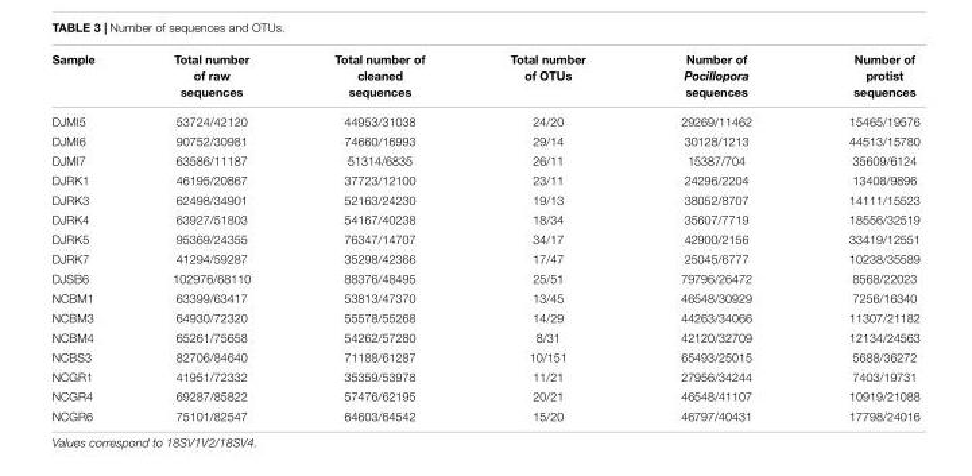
<table><thead><tr><td>Sample</td><td>Total number of raw sequences</td><td>Total number of cleaned sequences</td><td>Total number of OTUs</td><td>Number of Pocillopora sequences</td><td>Number of protist sequences</td></tr></thead><tbody><tr><td>DJMI5</td><td>53724/42120</td><td>44953/31038</td><td>24/20</td><td>29269/11462</td><td>15465/19576</td></tr><tr><td>DJMI6</td><td>90752/30981</td><td>74660/16993</td><td>29/14</td><td>30128/1213</td><td>44513/15780</td></tr><tr><td>DJMI7</td><td>63586/11187</td><td>51314/6835</td><td>26/11</td><td>15387/704</td><td>35609/6124</td></tr><tr><td>DJRK1</td><td>46195/20867</td><td>37723/12100</td><td>23/11</td><td>24296/2204</td><td>13408/9896</td></tr><tr><td>DJRK3</td><td>62498/34901</td><td>52163/24230</td><td>19/13</td><td>38052/8707</td><td>14111/15523</td></tr><tr><td>DJRK4</td><td>63927/51803</td><td>54167/40238</td><td>18/34</td><td>35607/7719</td><td>18556/32519</td></tr><tr><td>DJRK5</td><td>95369/24355</td><td>76347/14707</td><td>34/17</td><td>42900/2156</td><td>33419/12551</td></tr><tr><td>DJRK7</td><td>41294/59287</td><td>35298/42366</td><td>17/47</td><td>25045/6777</td><td>10238/35589</td></tr><tr><td>DJSB6</td><td>102976/68110</td><td>88376/48495</td><td>25/51</td><td>79796/26472</td><td>8568/22023</td></tr><tr><td>NCBM1</td><td>63399/63417</td><td>53813/47370</td><td>13/45</td><td>46548/30929</td><td>7256/16340</td></tr><tr><td>NCBM3</td><td>64930/72320</td><td>55578/55268</td><td>14/29</td><td>44263/34066</td><td>11307/21182</td></tr><tr><td>NCBM4</td><td>65261/75658</td><td>54262/57280</td><td>8/31</td><td>42120/32709</td><td>12134/24563</td></tr><tr><td>NCBS3</td><td>82706/84640</td><td>71188/61287</td><td>10/151</td><td>65493/25015</td><td>5688/36272</td></tr><tr><td>NCGR1</td><td>41951/72332</td><td>35359/53978</td><td>11/21</td><td>27956/34244</td><td>7403/19731</td></tr><tr><td>NCGR4</td><td>69287/85822</td><td>57476/62195</td><td>20/21</td><td>46548/41107</td><td>10919/21088</td></tr><tr><td>NCGR6</td><td>75101/82547</td><td>64603/64542</td><td>15/20</td><td>46797/40431</td><td>17798/24016</td></tr></tbody></table>